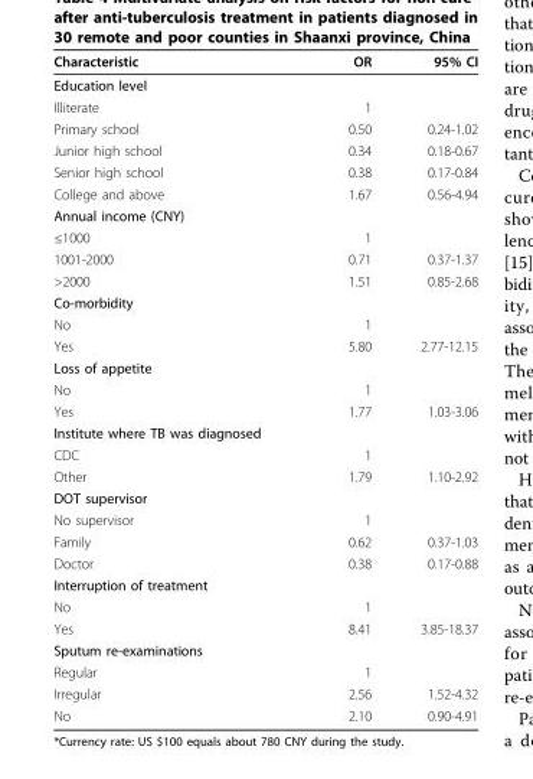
<table><thead><tr><td>Characteristic</td><td>OR</td><td>95% CI</td></tr></thead><tbody><tr><td colspan="3">Education level</td></tr><tr><td>Illiterate</td><td>1</td><td></td></tr><tr><td>Primary school</td><td>0.50</td><td>0.24-1.02</td></tr><tr><td>Junior high school</td><td>0.34</td><td>0.18-0.67</td></tr><tr><td>Senior high school</td><td>0.38</td><td>0.17-0.84</td></tr><tr><td>College and above</td><td>1.67</td><td>0.56-4.94</td></tr><tr><td colspan="3">Annual income (CNY)</td></tr><tr><td>≤1000</td><td>1</td><td></td></tr><tr><td>1001-2000</td><td>0.71</td><td>0.37-1.37</td></tr><tr><td>&gt;2000</td><td>1.51</td><td>0.85-2.68</td></tr><tr><td colspan="3">Co-morbidity</td></tr><tr><td>No</td><td>1</td><td></td></tr><tr><td>Yes</td><td>5.80</td><td>2.77-12.15</td></tr><tr><td colspan="3">Loss of appetite</td></tr><tr><td>No</td><td>1</td><td></td></tr><tr><td>Yes</td><td>1.77</td><td>1.03-3.06</td></tr><tr><td colspan="3">Institute where TB was diagnosed</td></tr><tr><td>CDC</td><td>1</td><td></td></tr><tr><td>Other</td><td>1.79</td><td>1.10-2.92</td></tr><tr><td colspan="3">DOT supervisor</td></tr><tr><td>No supervisor</td><td>1</td><td></td></tr><tr><td>Family</td><td>0.62</td><td>0.37-1.03</td></tr><tr><td>Doctor</td><td>0.38</td><td>0.17-0.88</td></tr><tr><td colspan="3">Interruption of treatment</td></tr><tr><td>No</td><td>1</td><td></td></tr><tr><td>Yes</td><td>8.41</td><td>3.85-18.37</td></tr><tr><td colspan="3">Sputum re-examinations</td></tr><tr><td>Regular</td><td>1</td><td></td></tr><tr><td>Irregular</td><td>2.56</td><td>1.52-4.32</td></tr><tr><td>No</td><td>2.10</td><td>0.90-4.91</td></tr></tbody></table>